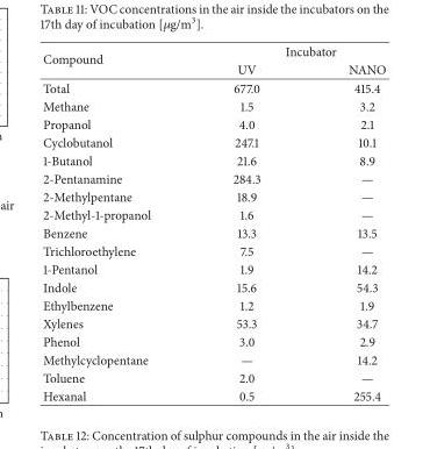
<table><thead><tr><td rowspan="2">Compound</td><td colspan="2">Incubator</td></tr><tr><td>UV</td><td>NANO</td></tr></thead><tbody><tr><td>Total</td><td>677.0</td><td>415.4</td></tr><tr><td>Methane</td><td>1.5</td><td>3.2</td></tr><tr><td>Propanol</td><td>4.0</td><td>2.1</td></tr><tr><td>Cyclobutanol</td><td>247.1</td><td>10.1</td></tr><tr><td>1-Butanol</td><td>21.6</td><td>8.9</td></tr><tr><td>2-Pentanamine</td><td>284.3</td><td>—</td></tr><tr><td>2-Methylpentane</td><td>18.9</td><td>—</td></tr><tr><td>2-Methyl-1-propanol</td><td>1.6</td><td>—</td></tr><tr><td>Benzene</td><td>13.3</td><td>13.5</td></tr><tr><td>Trichloroethylene</td><td>7.5</td><td>—</td></tr><tr><td>1-Pentanol</td><td>1.9</td><td>14.2</td></tr><tr><td>Indole</td><td>15.6</td><td>54.3</td></tr><tr><td>Ethylbenzene</td><td>1.2</td><td>1.9</td></tr><tr><td>Xylenes</td><td>53.3</td><td>34.7</td></tr><tr><td>Phenol</td><td>3.0</td><td>2.9</td></tr><tr><td>Methylcyclopentane</td><td>—</td><td>14.2</td></tr><tr><td>Toluene</td><td>2.0</td><td>—</td></tr><tr><td>Hexanal</td><td>0.5</td><td>255.4</td></tr></tbody></table>